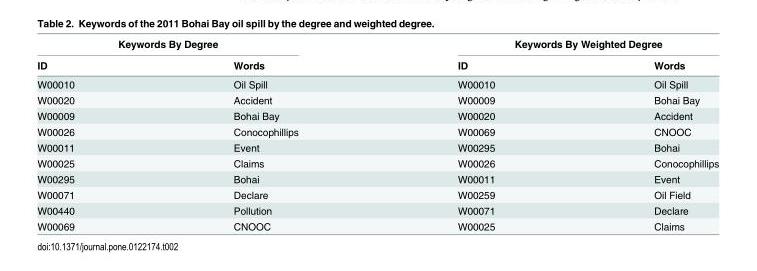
<table><thead><tr><td colspan="2">Keywords By Degree</td><td colspan="2">Keywords By Weighted Degree</td></tr><tr><td>ID</td><td>Words</td><td>ID</td><td>Words</td></tr></thead><tbody><tr><td>W00010</td><td>Oil Spill</td><td>W00010</td><td>Oil Spill</td></tr><tr><td>W00020</td><td>Accident</td><td>W00009</td><td>Bohai Bay</td></tr><tr><td>W00009</td><td>Bohai Bay</td><td>W00020</td><td>Accident</td></tr><tr><td>W00026</td><td>Conocophillips</td><td>W00069</td><td>CNOOC</td></tr><tr><td>W00011</td><td>Event</td><td>W00295</td><td>Bohai</td></tr><tr><td>W00025</td><td>Claims</td><td>W00026</td><td>Conocophillips</td></tr><tr><td>W00295</td><td>Bohai</td><td>W00011</td><td>Event</td></tr><tr><td>W00071</td><td>Declare</td><td>W00259</td><td>Oil Field</td></tr><tr><td>W00440</td><td>Pollution</td><td>W00071</td><td>Declare</td></tr><tr><td>W00069</td><td>CNOOC</td><td>W00025</td><td>Claims</td></tr></tbody></table>